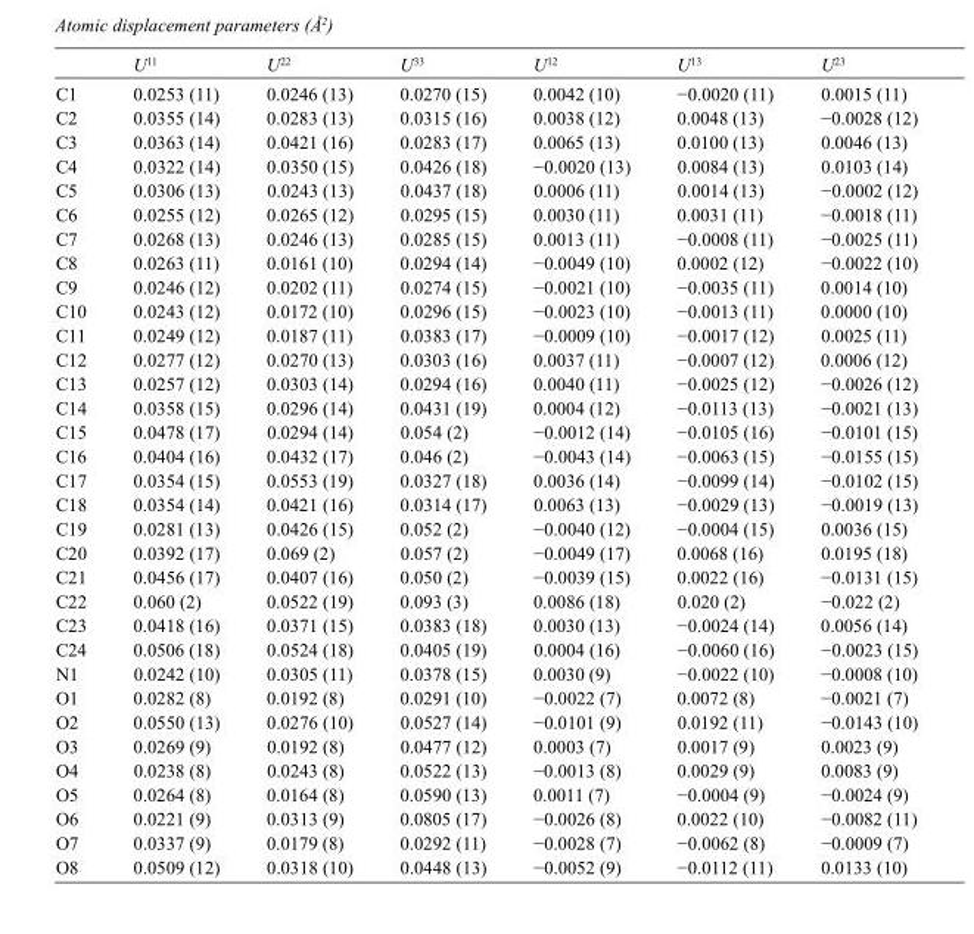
<table><thead><tr><td></td><td>U<sup>11</sup></td><td>U<sup>22</sup></td><td>U<sup>33</sup></td><td>U<sup>12</sup></td><td>U<sup>13</sup></td><td>U<sup>23</sup></td></tr></thead><tbody><tr><td>C1</td><td>0.0253 (11)</td><td>0.0246 (13)</td><td>0.0270 (15)</td><td>0.0042 (10)</td><td>−0.0020 (11)</td><td>0.0015 (11)</td></tr><tr><td>C2</td><td>0.0355 (14)</td><td>0.0283 (13)</td><td>0.0315 (16)</td><td>0.0038 (12)</td><td>0.0048 (13)</td><td>−0.0028 (12)</td></tr><tr><td>C3</td><td>0.0363 (14)</td><td>0.0421 (16)</td><td>0.0283 (17)</td><td>0.0065 (13)</td><td>0.0100 (13)</td><td>0.0046 (13)</td></tr><tr><td>C4</td><td>0.0322 (14)</td><td>0.0350 (15)</td><td>0.0426 (18)</td><td>−0.0020 (13)</td><td>0.0084 (13)</td><td>0.0103 (14)</td></tr><tr><td>C5</td><td>0.0306 (13)</td><td>0.0243 (13)</td><td>0.0437 (18)</td><td>0.0006 (11)</td><td>0.0014 (13)</td><td>−0.0002 (12)</td></tr><tr><td>C6</td><td>0.0255 (12)</td><td>0.0265 (12)</td><td>0.0295 (15)</td><td>0.0030 (11)</td><td>0.0031 (11)</td><td>−0.0018 (11)</td></tr><tr><td>C7</td><td>0.0268 (13)</td><td>0.0246 (13)</td><td>0.0285 (15)</td><td>0.0013 (11)</td><td>−0.0008 (11)</td><td>−0.0025 (11)</td></tr><tr><td>C8</td><td>0.0263 (11)</td><td>0.0161 (10)</td><td>0.0294 (14)</td><td>−0.0049 (10)</td><td>0.0002 (12)</td><td>−0.0022 (10)</td></tr><tr><td>C9</td><td>0.0246 (12)</td><td>0.0202 (11)</td><td>0.0274 (15)</td><td>−0.0021 (10)</td><td>−0.0035 (11)</td><td>0.0014 (10)</td></tr><tr><td>C10</td><td>0.0243 (12)</td><td>0.0172 (10)</td><td>0.0296 (15)</td><td>−0.0023 (10)</td><td>−0.0013 (11)</td><td>0.0000 (10)</td></tr><tr><td>C11</td><td>0.0249 (12)</td><td>0.0187 (11)</td><td>0.0383 (17)</td><td>−0.0009 (10)</td><td>−0.0017 (12)</td><td>0.0025 (11)</td></tr><tr><td>C12</td><td>0.0277 (12)</td><td>0.0270 (13)</td><td>0.0303 (16)</td><td>0.0037 (11)</td><td>−0.0007 (12)</td><td>0.0006 (12)</td></tr><tr><td>C13</td><td>0.0257 (12)</td><td>0.0303 (14)</td><td>0.0294 (16)</td><td>0.0040 (11)</td><td>−0.0025 (12)</td><td>−0.0026 (12)</td></tr><tr><td>C14</td><td>0.0358 (15)</td><td>0.0296 (14)</td><td>0.0431 (19)</td><td>0.0004 (12)</td><td>−0.0113 (13)</td><td>−0.0021 (13)</td></tr><tr><td>C15</td><td>0.0478 (17)</td><td>0.0294 (14)</td><td>0.054 (2)</td><td>−0.0012 (14)</td><td>−0.0105 (16)</td><td>−0.0101 (15)</td></tr><tr><td>C16</td><td>0.0404 (16)</td><td>0.0432 (17)</td><td>0.046 (2)</td><td>−0.0043 (14)</td><td>−0.0063 (15)</td><td>−0.0155 (15)</td></tr><tr><td>C17</td><td>0.0354 (15)</td><td>0.0553 (19)</td><td>0.0327 (18)</td><td>0.0036 (14)</td><td>−0.0099 (14)</td><td>−0.0102 (15)</td></tr><tr><td>C18</td><td>0.0354 (14)</td><td>0.0421 (16)</td><td>0.0314 (17)</td><td>0.0063 (13)</td><td>−0.0029 (13)</td><td>−0.0019 (13)</td></tr><tr><td>C19</td><td>0.0281 (13)</td><td>0.0426 (15)</td><td>0.052 (2)</td><td>−0.0040 (12)</td><td>−0.0004 (15)</td><td>0.0036 (15)</td></tr><tr><td>C20</td><td>0.0392 (17)</td><td>0.069 (2)</td><td>0.057 (2)</td><td>−0.0049 (17)</td><td>0.0068 (16)</td><td>0.0195 (18)</td></tr><tr><td>C21</td><td>0.0456 (17)</td><td>0.0407 (16)</td><td>0.050 (2)</td><td>−0.0039 (15)</td><td>0.0022 (16)</td><td>−0.0131 (15)</td></tr><tr><td>C22</td><td>0.060 (2)</td><td>0.0522 (19)</td><td>0.093 (3)</td><td>0.0086 (18)</td><td>0.020 (2)</td><td>−0.022 (2)</td></tr><tr><td>C23</td><td>0.0418 (16)</td><td>0.0371 (15)</td><td>0.0383 (18)</td><td>0.0030 (13)</td><td>−0.0024 (14)</td><td>0.0056 (14)</td></tr><tr><td>C24</td><td>0.0506 (18)</td><td>0.0524 (18)</td><td>0.0405 (19)</td><td>0.0004 (16)</td><td>−0.0060 (16)</td><td>−0.0023 (15)</td></tr><tr><td>N1</td><td>0.0242 (10)</td><td>0.0305 (11)</td><td>0.0378 (15)</td><td>0.0030 (9)</td><td>−0.0022 (10)</td><td>−0.0008 (10)</td></tr><tr><td>O1</td><td>0.0282 (8)</td><td>0.0192 (8)</td><td>0.0291 (10)</td><td>−0.0022 (7)</td><td>0.0072 (8)</td><td>−0.0021 (7)</td></tr><tr><td>O2</td><td>0.0550 (13)</td><td>0.0276 (10)</td><td>0.0527 (14)</td><td>−0.0101 (9)</td><td>0.0192 (11)</td><td>−0.0143 (10)</td></tr><tr><td>O3</td><td>0.0269 (9)</td><td>0.0192 (8)</td><td>0.0477 (12)</td><td>0.0003 (7)</td><td>0.0017 (9)</td><td>0.0023 (9)</td></tr><tr><td>O4</td><td>0.0238 (8)</td><td>0.0243 (8)</td><td>0.0522 (13)</td><td>−0.0013 (8)</td><td>0.0029 (9)</td><td>0.0083 (9)</td></tr><tr><td>O5</td><td>0.0264 (8)</td><td>0.0164 (8)</td><td>0.0590 (13)</td><td>0.0011 (7)</td><td>−0.0004 (9)</td><td>−0.0024 (9)</td></tr><tr><td>O6</td><td>0.0221 (9)</td><td>0.0313 (9)</td><td>0.0805 (17)</td><td>−0.0026 (8)</td><td>0.0022 (10)</td><td>−0.0082 (11)</td></tr><tr><td>O7</td><td>0.0337 (9)</td><td>0.0179 (8)</td><td>0.0292 (11)</td><td>−0.0028 (7)</td><td>−0.0062 (8)</td><td>−0.0009 (7)</td></tr><tr><td>O8</td><td>0.0509 (12)</td><td>0.0318 (10)</td><td>0.0448 (13)</td><td>−0.0052 (9)</td><td>−0.0112 (11)</td><td>0.0133 (10)</td></tr></tbody></table>